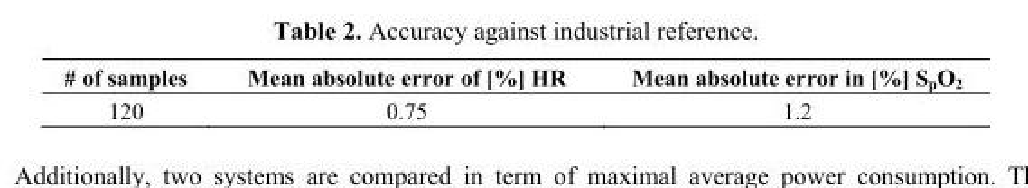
<table><thead><tr><td># of samples</td><td>Mean absolute error of [%] HR</td><td>Mean absolute error in [%] S<sub>p</sub>O<sub>2</sub></td></tr></thead><tbody><tr><td>120</td><td>0.75</td><td>1.2</td></tr></tbody></table>